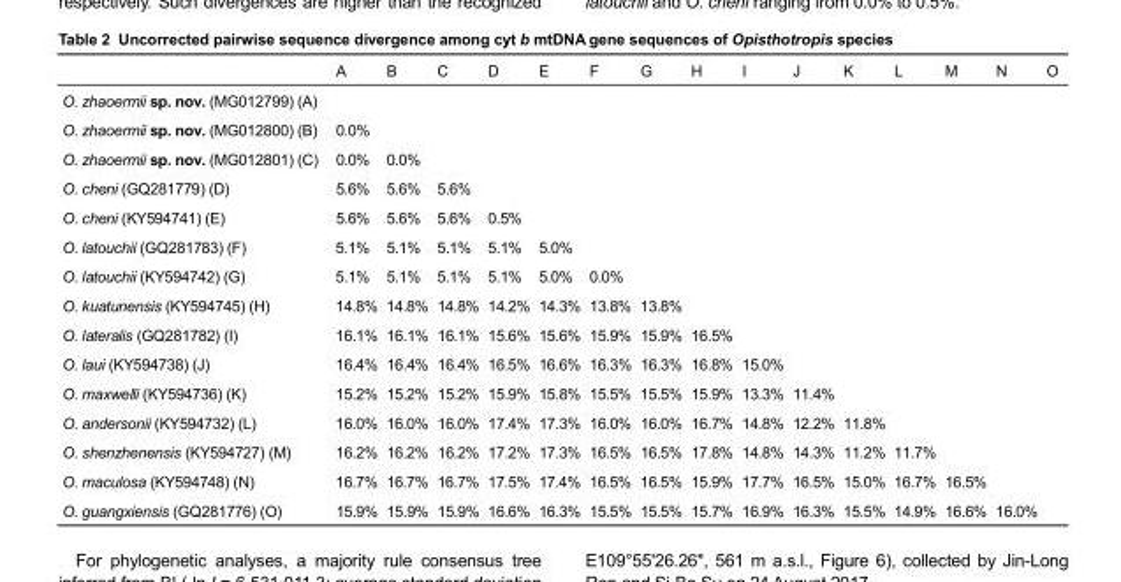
<table><thead><tr><td></td><td>A</td><td>B</td><td>C</td><td>D</td><td>E</td><td>F</td><td>G</td><td>H</td><td>I</td><td>J</td><td>K</td><td>L</td><td>M</td><td>N</td><td>O</td></tr></thead><tbody><tr><td colspan="16">O. zhaoermii sp. nov. (MG012799) (A)</td></tr><tr><td>O. zhaoermii sp. nov. (MG012800) (B)</td><td>0.0%</td><td></td><td></td><td></td><td></td><td></td><td></td><td></td><td></td><td></td><td></td><td></td><td></td><td></td><td></td></tr><tr><td>O. zhaoermii sp. nov. (MG012801) (C)</td><td>0.0%</td><td>0.0%</td><td></td><td></td><td></td><td></td><td></td><td></td><td></td><td></td><td></td><td></td><td></td><td></td><td></td></tr><tr><td>O. cheni (GQ281779) (D)</td><td>5.6%</td><td>5.6%</td><td>5.6%</td><td></td><td></td><td></td><td></td><td></td><td></td><td></td><td></td><td></td><td></td><td></td><td></td></tr><tr><td>O. cheni (KY594741) (E)</td><td>5.6%</td><td>5.6%</td><td>5.6%</td><td>0.5%</td><td></td><td></td><td></td><td></td><td></td><td></td><td></td><td></td><td></td><td></td><td></td></tr><tr><td>O. latouchii (GQ281783) (F)</td><td>5.1%</td><td>5.1%</td><td>5.1%</td><td>5.1%</td><td>5.0%</td><td></td><td></td><td></td><td></td><td></td><td></td><td></td><td></td><td></td><td></td></tr><tr><td>O. latouchii (KY594742) (G)</td><td>5.1%</td><td>5.1%</td><td>5.1%</td><td>5.1%</td><td>5.0%</td><td>0.0%</td><td></td><td></td><td></td><td></td><td></td><td></td><td></td><td></td><td></td></tr><tr><td>O. kuatunensis (KY594745) (H)</td><td>14.8%</td><td>14.8%</td><td>14.8%</td><td>14.2%</td><td>14.3%</td><td>13.8%</td><td>13.8%</td><td></td><td></td><td></td><td></td><td></td><td></td><td></td><td></td></tr><tr><td>O. lateralis (GQ281782) (I)</td><td>16.1%</td><td>16.1%</td><td>16.1%</td><td>15.6%</td><td>15.6%</td><td>15.9%</td><td>15.9%</td><td>16.5%</td><td></td><td></td><td></td><td></td><td></td><td></td><td></td></tr><tr><td>O. laui (KY594738) (J)</td><td>16.4%</td><td>16.4%</td><td>16.4%</td><td>16.5%</td><td>16.6%</td><td>16.3%</td><td>16.3%</td><td>16.8%</td><td>15.0%</td><td></td><td></td><td></td><td></td><td></td><td></td></tr><tr><td>O. maxwelli (KY594736) (K)</td><td>15.2%</td><td>15.2%</td><td>15.2%</td><td>15.9%</td><td>15.8%</td><td>15.5%</td><td>15.5%</td><td>15.9%</td><td>13.3%</td><td>11.4%</td><td></td><td></td><td></td><td></td><td></td></tr><tr><td>O. andersonii (KY594732) (L)</td><td>16.0%</td><td>16.0%</td><td>16.0%</td><td>17.4%</td><td>17.3%</td><td>16.0%</td><td>16.0%</td><td>16.7%</td><td>14.8%</td><td>12.2%</td><td>11.8%</td><td></td><td></td><td></td><td></td></tr><tr><td>O. shenzhenensis (KY594727) (M)</td><td>16.2%</td><td>16.2%</td><td>16.2%</td><td>17.2%</td><td>17.3%</td><td>16.5%</td><td>16.5%</td><td>17.8%</td><td>14.8%</td><td>14.3%</td><td>11.2%</td><td>11.7%</td><td></td><td></td><td></td></tr><tr><td>O. maculosa (KY594748) (N)</td><td>16.7%</td><td>16.7%</td><td>16.7%</td><td>17.5%</td><td>17.4%</td><td>16.5%</td><td>16.5%</td><td>15.9%</td><td>17.7%</td><td>16.5%</td><td>15.0%</td><td>16.7%</td><td>16.5%</td><td></td><td></td></tr><tr><td>O. guangxiensis (GQ281776) (O)</td><td>15.9%</td><td>15.9%</td><td>15.9%</td><td>16.6%</td><td>16.3%</td><td>15.5%</td><td>15.5%</td><td>15.7%</td><td>16.9%</td><td>16.3%</td><td>15.5%</td><td>14.9%</td><td>16.6%</td><td>16.0%</td><td></td></tr></tbody></table>